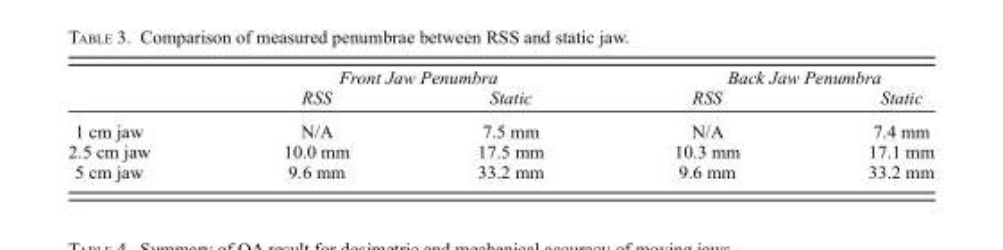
<table><thead><tr><td rowspan="2"></td><td colspan="2">Front Jaw Penumbra</td><td colspan="2">Back Jaw Penumbra</td></tr><tr><td>RSS</td><td>Static</td><td>RSS</td><td>Static</td></tr></thead><tbody><tr><td>1 cm jaw</td><td>N/A</td><td>7.5 mm</td><td>N/A</td><td>7.4 mm</td></tr><tr><td>2.5 cm jaw</td><td>10.0 mm</td><td>17.5 mm</td><td>10.3 mm</td><td>17.1 mm</td></tr><tr><td>5 cm jaw</td><td>9.6 mm</td><td>33.2 mm</td><td>9.6 mm</td><td>33.2 mm</td></tr></tbody></table>